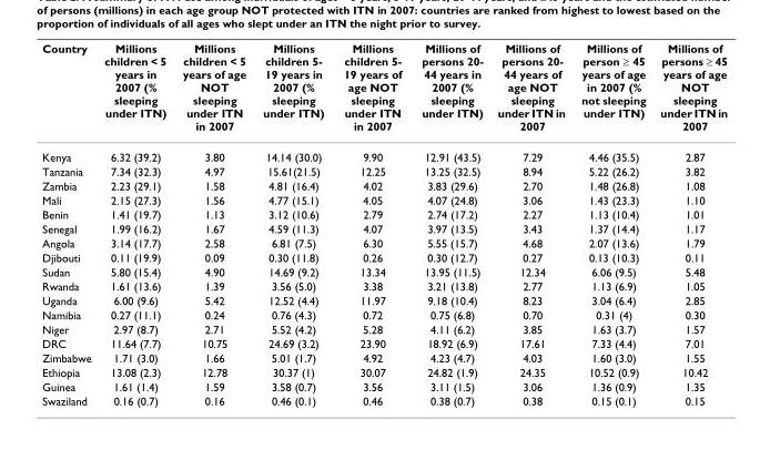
<table><thead><tr><td>Country</td><td>Millions children &lt; 5 years in 2007 (% sleeping under ITN)</td><td>Millions children &lt; 5 years of age NOT sleeping under ITN in 2007</td><td>Millions children 5- 19 years in 2007 (% sleeping under ITN)</td><td>Millions children 5- 19 years of age NOT sleeping under ITN in 2007</td><td>Millions of persons 20- 44 years in 2007 (% sleeping under ITN)</td><td>Millions of persons 20- 44 years of age NOT sleeping under ITN in 2007</td><td>Millions of person ≥ 45 years of age in 2007 (% not sleeping under ITN)</td><td>Millions of persons ≥ 45 years of age NOT sleeping under ITN in 2007</td></tr></thead><tbody><tr><td>Kenya</td><td>6.32 (39.2)</td><td>3.80</td><td>14.14 (30.0)</td><td>9.90</td><td>12.91 (43.5)</td><td>7.29</td><td>4.46 (35.5)</td><td>2.87</td></tr><tr><td>Tanzania</td><td>7.34 (32.3)</td><td>4.97</td><td>15.61(21.5)</td><td>12.25</td><td>13.25 (32.5)</td><td>8.94</td><td>5.22 (26.2)</td><td>3.82</td></tr><tr><td>Zambia</td><td>2.23 (29.1)</td><td>1.58</td><td>4.81 (16.4)</td><td>4.02</td><td>3.83 (29.6)</td><td>2.70</td><td>1.48 (26.8)</td><td>1.08</td></tr><tr><td>Mali</td><td>2.15 (27.3)</td><td>1.56</td><td>4.77 (15.1)</td><td>4.05</td><td>4.07 (24.8)</td><td>3.06</td><td>1.43 (23.3)</td><td>1.10</td></tr><tr><td>Benin</td><td>1.41 (19.7)</td><td>1.13</td><td>3.12 (10.6)</td><td>2.79</td><td>2.74 (17.2)</td><td>2.27</td><td>1.13 (10.4)</td><td>1.01</td></tr><tr><td>Senegal</td><td>1.99 (16.2)</td><td>1.67</td><td>4.59 (11.3)</td><td>4.07</td><td>3.97 (13.5)</td><td>3.43</td><td>1.37 (14.4)</td><td>1.17</td></tr><tr><td>Angola</td><td>3.14 (17.7)</td><td>2.58</td><td>6.81 (7.5)</td><td>6.30</td><td>5.55 (15.7)</td><td>4.68</td><td>2.07 (13.6)</td><td>1.79</td></tr><tr><td>Djibouti</td><td>0.11 (19.9)</td><td>0.09</td><td>0.30 (11.8)</td><td>0.26</td><td>0.30 (12.7)</td><td>0.27</td><td>0.13 (10.3)</td><td>0.11</td></tr><tr><td>Sudan</td><td>5.80 (15.4)</td><td>4.90</td><td>14.69 (9.2)</td><td>13.34</td><td>13.95 (11.5)</td><td>12.34</td><td>6.06 (9.5)</td><td>5.48</td></tr><tr><td>Rwanda</td><td>1.61 (13.6)</td><td>1.39</td><td>3.56 (5.0)</td><td>3.38</td><td>3.21 (13.8)</td><td>2.77</td><td>1.13 (6.9)</td><td>1.05</td></tr><tr><td>Uganda</td><td>6.00 (9.6)</td><td>5.42</td><td>12.52 (4.4)</td><td>11.97</td><td>9.18 (10.4)</td><td>8.23</td><td>3.04 (6.4)</td><td>2.85</td></tr><tr><td>Namibia</td><td>0.27 (11.1)</td><td>0.24</td><td>0.76 (4.3)</td><td>0.72</td><td>0.75 (6.8)</td><td>0.70</td><td>0.31 (4)</td><td>0.30</td></tr><tr><td>Niger</td><td>2.97 (8.7)</td><td>2.71</td><td>5.52 (4.2)</td><td>5.28</td><td>4.11 (6.2)</td><td>3.85</td><td>1.63 (3.7)</td><td>1.57</td></tr><tr><td>DRC</td><td>11.64 (7.7)</td><td>10.75</td><td>24.69 (3.2)</td><td>23.90</td><td>18.92 (6.9)</td><td>17.61</td><td>7.33 (4.4)</td><td>7.01</td></tr><tr><td>Zimbabwe</td><td>1.71 (3.0)</td><td>1.66</td><td>5.01 (1.7)</td><td>4.92</td><td>4.23 (4.7)</td><td>4.03</td><td>1.60 (3.0)</td><td>1.55</td></tr><tr><td>Ethiopia</td><td>13.08 (2.3)</td><td>12.78</td><td>30.37 (1)</td><td>30.07</td><td>24.82 (1.9)</td><td>24.35</td><td>10.52 (0.9)</td><td>10.42</td></tr><tr><td>Guinea</td><td>1.61 (1.4)</td><td>1.59</td><td>3.58 (0.7)</td><td>3.56</td><td>3.11 (1.5)</td><td>3.06</td><td>1.36 (0.9)</td><td>1.35</td></tr><tr><td>Swaziland</td><td>0.16 (0.7)</td><td>0.16</td><td>0.46 (0.1)</td><td>0.46</td><td>0.38 (0.7)</td><td>0.38</td><td>0.15 (0.1)</td><td>0.15</td></tr></tbody></table>